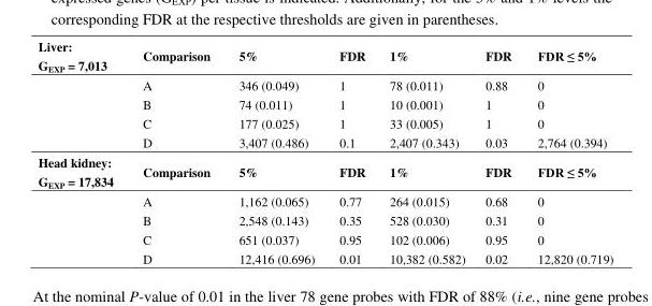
<table><thead><tr><td>Liver: G<sub>EXP</sub> = 7,013</td><td>Comparison</td><td>5%</td><td>FDR</td><td>1%</td><td>FDR</td><td>FDR ≤ 5%</td></tr></thead><tbody><tr><td></td><td>A</td><td>346 (0.049)</td><td>1</td><td>78 (0.011)</td><td>0.88</td><td>0</td></tr><tr><td></td><td>B</td><td>74 (0.011)</td><td>1</td><td>10 (0.001)</td><td>1</td><td>0</td></tr><tr><td></td><td>C</td><td>177 (0.025)</td><td>1</td><td>33 (0.005)</td><td>1</td><td>0</td></tr><tr><td></td><td>D</td><td>3,407 (0.486)</td><td>0.1</td><td>2,407 (0.343)</td><td>0.03</td><td>2,764 (0.394)</td></tr><tr><td rowspan="5">Head kidney: G<sub>EXP</sub> = 17,834</td><td>Comparison</td><td>5%</td><td>FDR</td><td>1%</td><td>FDR</td><td>FDR ≤ 5%</td></tr><tr><td>A</td><td>1,162 (0.065)</td><td>0.77</td><td>264 (0.015)</td><td>0.68</td><td>0</td></tr><tr><td>B</td><td>2,548 (0.143)</td><td>0.35</td><td>528 (0.030)</td><td>0.31</td><td>0</td></tr><tr><td>C</td><td>651 (0.037)</td><td>0.95</td><td>102 (0.006)</td><td>0.95</td><td>0</td></tr><tr><td>D</td><td>12,416 (0.696)</td><td>0.01</td><td>10,382 (0.582)</td><td>0.02</td><td>12,820 (0.719)</td></tr></tbody></table>